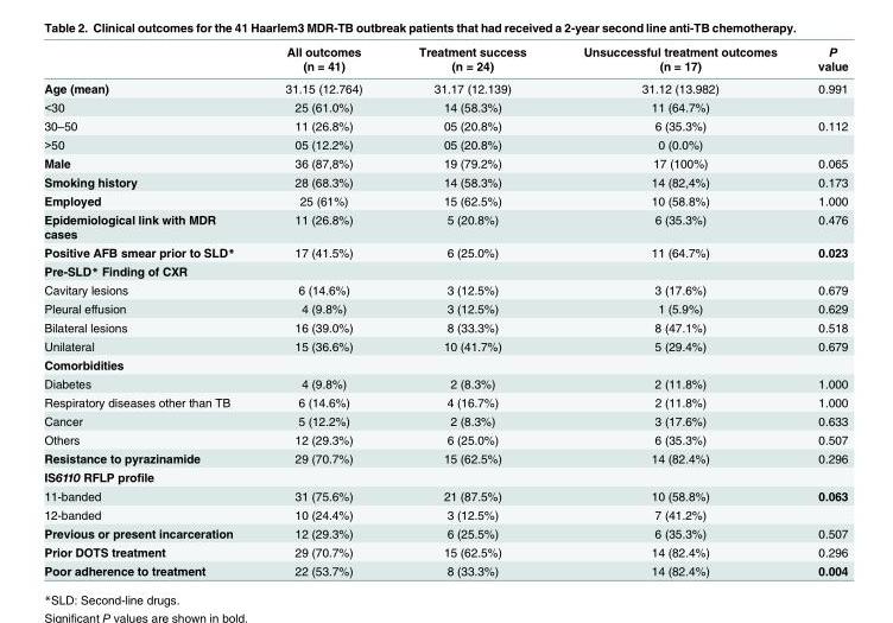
<table><thead><tr><td></td><td>All outcomes (n = 41)</td><td>Treatment success (n = 24)</td><td>Unsuccessful treatment outcomes (n = 17)</td><td>P value</td></tr></thead><tbody><tr><td>Age (mean)</td><td>31.15 (12.764)</td><td>31.17 (12.139)</td><td>31.12 (13.982)</td><td>0.991</td></tr><tr><td>&lt;30</td><td>25 (61.0%)</td><td>14 (58.3%)</td><td>11 (64.7%)</td><td></td></tr><tr><td>30–50</td><td>11 (26.8%)</td><td>05 (20.8%)</td><td>6 (35.3%)</td><td>0.112</td></tr><tr><td>&gt;50</td><td>05 (12.2%)</td><td>05 (20.8%)</td><td>0 (0.0%)</td><td></td></tr><tr><td>Male</td><td>36 (87,8%)</td><td>19 (79.2%)</td><td>17 (100%)</td><td>0.065</td></tr><tr><td>Smoking history</td><td>28 (68.3%)</td><td>14 (58.3%)</td><td>14 (82,4%)</td><td>0.173</td></tr><tr><td>Employed</td><td>25 (61%)</td><td>15 (62.5%)</td><td>10 (58.8%)</td><td>1.000</td></tr><tr><td>Epidemiological link with MDR cases</td><td>11 (26.8%)</td><td>5 (20.8%)</td><td>6 (35.3%)</td><td>0.476</td></tr><tr><td>Positive AFB smear prior to SLD*</td><td>17 (41.5%)</td><td>6 (25.0%)</td><td>11 (64.7%)</td><td>0.023</td></tr><tr><td colspan="5">Pre-SLD* Finding of CXR</td></tr><tr><td>Cavitary lesions</td><td>6 (14.6%)</td><td>3 (12.5%)</td><td>3 (17.6%)</td><td>0.679</td></tr><tr><td>Pleural effusion</td><td>4 (9.8%)</td><td>3 (12.5%)</td><td>1 (5.9%)</td><td>0.629</td></tr><tr><td>Bilateral lesions</td><td>16 (39.0%)</td><td>8 (33.3%)</td><td>8 (47.1%)</td><td>0.518</td></tr><tr><td>Unilateral</td><td>15 (36.6%)</td><td>10 (41.7%)</td><td>5 (29.4%)</td><td>0.679</td></tr><tr><td colspan="5">Comorbidities</td></tr><tr><td>Diabetes</td><td>4 (9.8%)</td><td>2 (8.3%)</td><td>2 (11.8%)</td><td>1.000</td></tr><tr><td>Respiratory diseases other than TB</td><td>6 (14.6%)</td><td>4 (16.7%)</td><td>2 (11.8%)</td><td>1.000</td></tr><tr><td>Cancer</td><td>5 (12.2%)</td><td>2 (8.3%)</td><td>3 (17.6%)</td><td>0.633</td></tr><tr><td>Others</td><td>12 (29.3%)</td><td>6 (25.0%)</td><td>6 (35.3%)</td><td>0.507</td></tr><tr><td>Resistance to pyrazinamide</td><td>29 (70.7%)</td><td>15 (62.5%)</td><td>14 (82.4%)</td><td>0.296</td></tr><tr><td colspan="5">IS6110 RFLP profile</td></tr><tr><td>11-banded</td><td>31 (75.6%)</td><td>21 (87.5%)</td><td>10 (58.8%)</td><td>0.063</td></tr><tr><td>12-banded</td><td>10 (24.4%)</td><td>3 (12.5%)</td><td>7 (41.2%)</td><td></td></tr><tr><td>Previous or present incarceration</td><td>12 (29.3%)</td><td>6 (25.5%)</td><td>6 (35.3%)</td><td>0.507</td></tr><tr><td>Prior DOTS treatment</td><td>29 (70.7%)</td><td>15 (62.5%)</td><td>14 (82.4%)</td><td>0.296</td></tr><tr><td>Poor adherence to treatment</td><td>22 (53.7%)</td><td>8 (33.3%)</td><td>14 (82.4%)</td><td>0.004</td></tr></tbody></table>